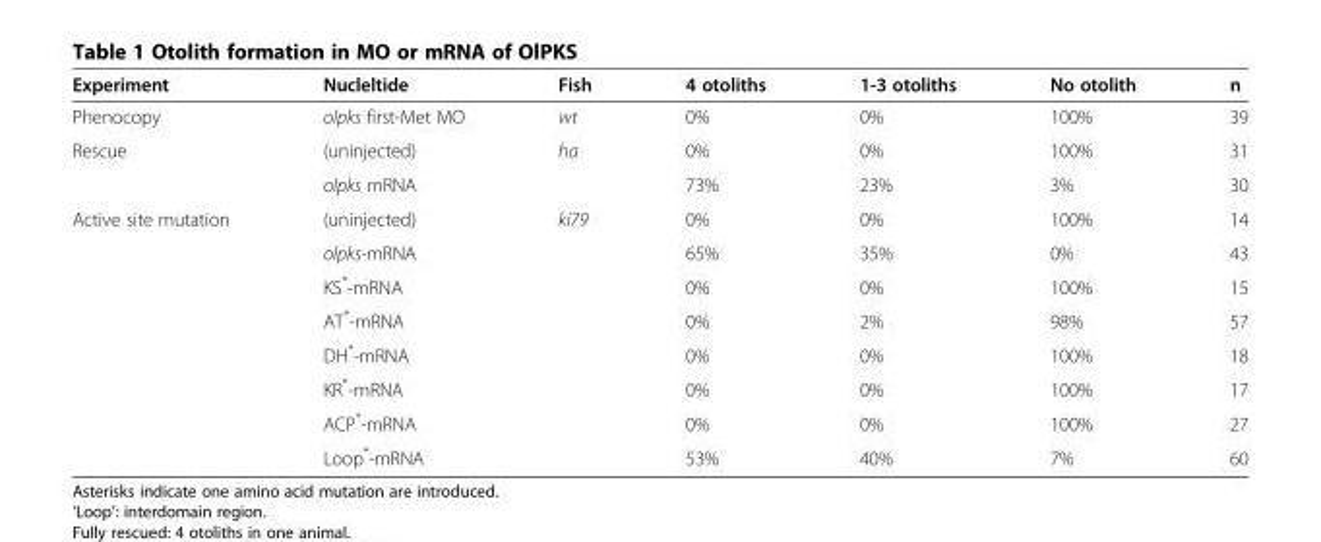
<table><thead><tr><td>Experiment</td><td>Nucleltide</td><td>Fish</td><td>4 otoliths</td><td>1-3 otoliths</td><td>No otolith</td><td>n</td></tr></thead><tbody><tr><td>Phenocopy</td><td>olpks first-Met MO</td><td>wt</td><td>0%</td><td>0%</td><td>100%</td><td>39</td></tr><tr><td rowspan="2">Rescue</td><td>(uninjected)</td><td rowspan="2">ha</td><td>0%</td><td>0%</td><td>100%</td><td>31</td></tr><tr><td>olpks mRNA</td><td>73%</td><td>23%</td><td>3%</td><td>30</td></tr><tr><td rowspan="8">Active site mutation</td><td>(uninjected)</td><td rowspan="8">ki79</td><td>0%</td><td>0%</td><td>100%</td><td>14</td></tr><tr><td>olpks-mRNA</td><td>65%</td><td>35%</td><td>0%</td><td>43</td></tr><tr><td>KS*-mRNA</td><td>0%</td><td>0%</td><td>100%</td><td>15</td></tr><tr><td>AT*-mRNA</td><td>0%</td><td>2%</td><td>98%</td><td>57</td></tr><tr><td>DH*-mRNA</td><td>0%</td><td>0%</td><td>100%</td><td>18</td></tr><tr><td>KR*-mRNA</td><td>0%</td><td>0%</td><td>100%</td><td>17</td></tr><tr><td>ACP*-mRNA</td><td>0%</td><td>0%</td><td>100%</td><td>27</td></tr><tr><td>Loop*-mRNA</td><td>53%</td><td>40%</td><td>7%</td><td>60</td></tr></tbody></table>